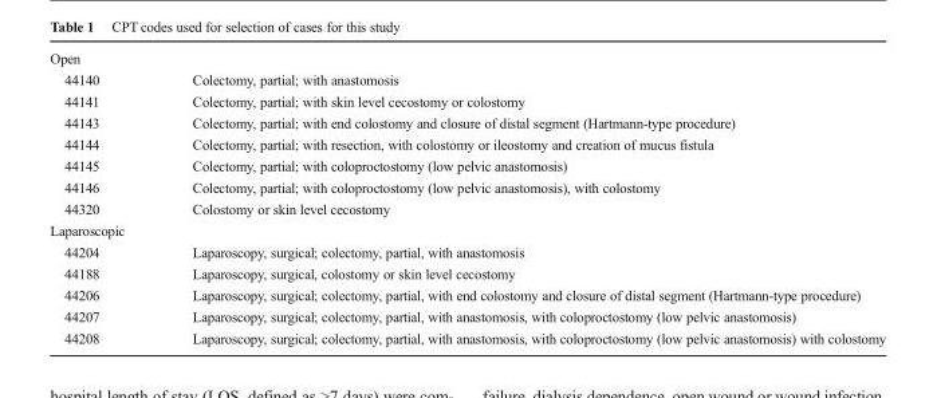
<table><tbody><tr><td colspan="2">Open</td></tr><tr><td>44140</td><td>Colectomy, partial; with anastomosis</td></tr><tr><td>44141</td><td>Colectomy, partial; with skin level cecostomy or colostomy</td></tr><tr><td>44143</td><td>Colectomy, partial; with end colostomy and closure of distal segment (Hartmann-type procedure)</td></tr><tr><td>44144</td><td>Colectomy, partial; with resection, with colostomy or ileostomy and creation of mucus fistula</td></tr><tr><td>44145</td><td>Colectomy, partial; with coloproctostomy (low pelvic anastomosis)</td></tr><tr><td>44146</td><td>Colectomy, partial; with coloproctostomy (low pelvic anastomosis), with colostomy</td></tr><tr><td>44320</td><td>Colostomy or skin level cecostomy</td></tr><tr><td colspan="2">Laparoscopic</td></tr><tr><td>44204</td><td>Laparoscopy, surgical; colectomy, partial, with anastomosis</td></tr><tr><td>44188</td><td>Laparoscopy, surgical, colostomy or skin level cecostomy</td></tr><tr><td>44206</td><td>Laparoscopy, surgical; colectomy, partial, with end colostomy and closure of distal segment (Hartmann-type procedure)</td></tr><tr><td>44207</td><td>Laparoscopy, surgical; colectomy, partial, with anastomosis, with coloproctostomy (low pelvic anastomosis)</td></tr><tr><td>44208</td><td>Laparoscopy, surgical; colectomy, partial, with anastomosis, with coloproctostomy (low pelvic anastomosis) with colostomy</td></tr></tbody></table>